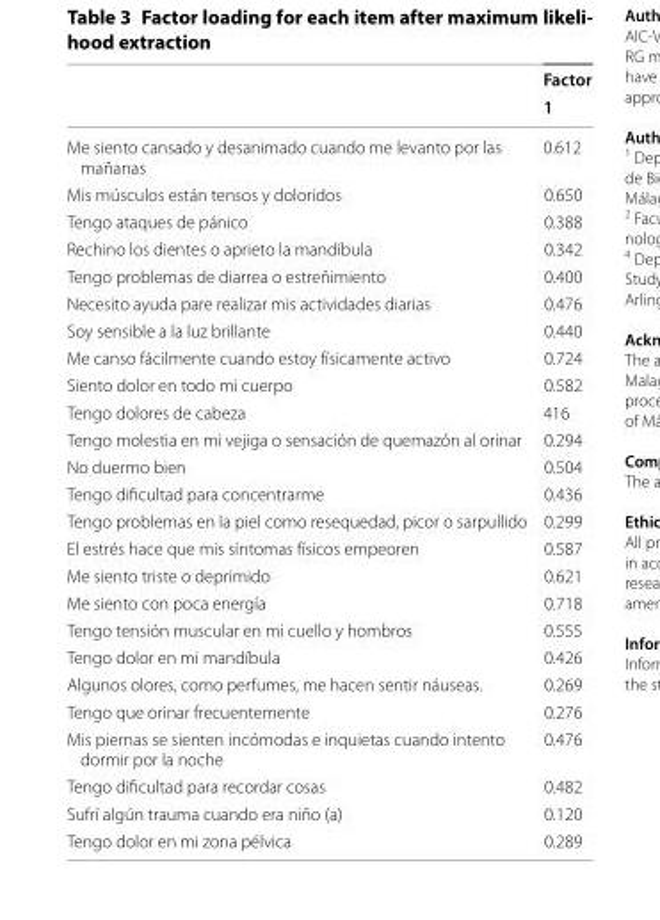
<table><thead><tr><td rowspan="2"></td><td rowspan="2">Factor 1</td></tr><tr></tr></thead><tbody><tr><td>Me siento cansado y desanimado cuando me levanto por las mañanas</td><td>0.612</td></tr><tr><td>Mis músculos están tensos y doloridos</td><td>0.650</td></tr><tr><td>Tengo ataques de pánico</td><td>0.388</td></tr><tr><td>Rechino los dientes o aprieto la mandíbula</td><td>0.342</td></tr><tr><td>Tengo problemas de diarrea o estreñimiento</td><td>0.400</td></tr><tr><td>Necesito ayuda pare realizar mis actividades diarias</td><td>0.476</td></tr><tr><td>Soy sensible a la luz brillante</td><td>0.440</td></tr><tr><td>Me canso fácilmente cuando estoy físicamente activo</td><td>0.724</td></tr><tr><td>Siento dolor en todo mi cuerpo</td><td>0.582</td></tr><tr><td>Tengo dolores de cabeza</td><td>416</td></tr><tr><td>Tengo molestia en mi vejiga o sensación de quemazón al orinar</td><td>0.294</td></tr><tr><td>No duermo bien</td><td>0.504</td></tr><tr><td>Tengo dificultad para concentrarme</td><td>0.436</td></tr><tr><td>Tengo problemas en la piel como resequedad, picor o sarpullido</td><td>0.299</td></tr><tr><td>El estrés hace que mis síntomas físicos empeoren</td><td>0.587</td></tr><tr><td>Me siento triste o deprimido</td><td>0.621</td></tr><tr><td>Me siento con poca energía</td><td>0.718</td></tr><tr><td>Tengo tensión muscular en mi cuello y hombros</td><td>0.555</td></tr><tr><td>Tengo dolor en mi mandíbula</td><td>0.426</td></tr><tr><td>Algunos olores, como perfumes, me hacen sentir náuseas.</td><td>0.269</td></tr><tr><td>Tengo que orinar frecuentemente</td><td>0.276</td></tr><tr><td>Mis piernas se sienten incómodas e inquietas cuando intento dormir por la noche</td><td>0.476</td></tr><tr><td>Tengo dificultad para recordar cosas</td><td>0.482</td></tr><tr><td>Sufrí algún trauma cuando era niño (a)</td><td>0.120</td></tr><tr><td>Tengo dolor en mi zona pélvica</td><td>0.289</td></tr></tbody></table>